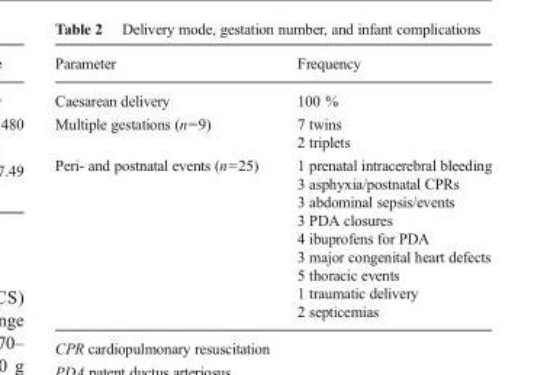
<table><thead><tr><td>Parameter</td><td>Frequency</td></tr></thead><tbody><tr><td>Caesarean delivery</td><td>100 %</td></tr><tr><td>Multiple gestations (n=9)</td><td>7 twins 2 triplets</td></tr><tr><td>Peri- and postnatal events (n=25)</td><td>1 prenatal intracerebral bleeding 3 asphyxia/postnatal CPRs 3 abdominal sepsis/events 3 PDA closures 4 ibuprofens for PDA 3 major congenital heart defects 5 thoracic events 1 traumatic delivery 2 septicemias</td></tr></tbody></table>